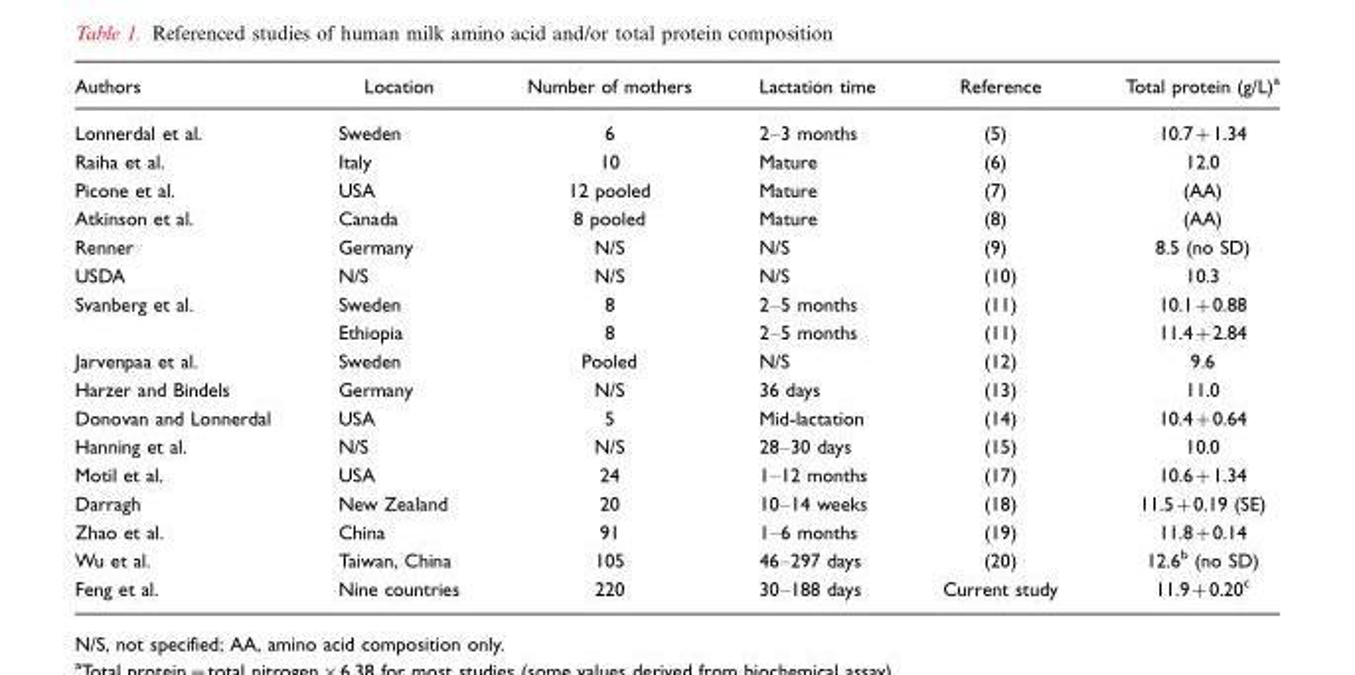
<table><thead><tr><td>Authors</td><td>Location</td><td>Number of mothers</td><td>Lactation time</td><td>Reference</td><td>Total protein (g/L)<sup>a</sup></td></tr></thead><tbody><tr><td>Lonnerdal et al.</td><td>Sweden</td><td>6</td><td>2–3 months</td><td>(5)</td><td>10.7+1.34</td></tr><tr><td>Raiha et al.</td><td>Italy</td><td>10</td><td>Mature</td><td>(6)</td><td>12.0</td></tr><tr><td>Picone et al.</td><td>USA</td><td>12 pooled</td><td>Mature</td><td>(7)</td><td>(AA)</td></tr><tr><td>Atkinson et al.</td><td>Canada</td><td>8 pooled</td><td>Mature</td><td>(8)</td><td>(AA)</td></tr><tr><td>Renner</td><td>Germany</td><td>N/S</td><td>N/S</td><td>(9)</td><td>8.5 (no SD)</td></tr><tr><td>USDA</td><td>N/S</td><td>N/S</td><td>N/S</td><td>(10)</td><td>10.3</td></tr><tr><td rowspan="2">Svanberg et al.</td><td>Sweden</td><td>8</td><td>2–5 months</td><td>(11)</td><td>10.1+0.88</td></tr><tr><td>Ethiopia</td><td>8</td><td>2–5 months</td><td>(11)</td><td>11.4+2.84</td></tr><tr><td>Jarvenpaa et al.</td><td>Sweden</td><td>Pooled</td><td>N/S</td><td>(12)</td><td>9.6</td></tr><tr><td>Harzer and Bindels</td><td>Germany</td><td>N/S</td><td>36 days</td><td>(13)</td><td>11.0</td></tr><tr><td>Donovan and Lonnerdal</td><td>USA</td><td>5</td><td>Mid-lactation</td><td>(14)</td><td>10.4+0.64</td></tr><tr><td>Hanning et al.</td><td>N/S</td><td>N/S</td><td>28–30 days</td><td>(15)</td><td>10.0</td></tr><tr><td>Motil et al.</td><td>USA</td><td>24</td><td>1–12 months</td><td>(17)</td><td>10.6+1.34</td></tr><tr><td>Darragh</td><td>New Zealand</td><td>20</td><td>10–14 weeks</td><td>(18)</td><td>11.5+0.19 (SE)</td></tr><tr><td>Zhao et al.</td><td>China</td><td>91</td><td>1–6 months</td><td>(19)</td><td>11.8+0.14</td></tr><tr><td>Wu et al.</td><td>Taiwan, China</td><td>105</td><td>46–297 days</td><td>(20)</td><td>12.6<sup>b</sup> (no SD)</td></tr><tr><td>Feng et al.</td><td>Nine countries</td><td>220</td><td>30–188 days</td><td>Current study</td><td>11.9+0.20<sup>c</sup></td></tr></tbody></table>